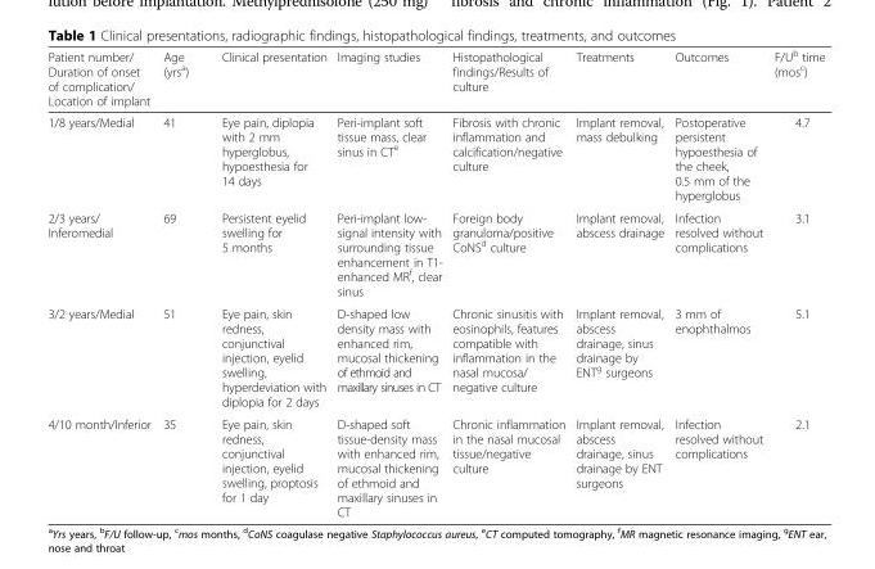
<table><thead><tr><td>Patient number/ Duration of onset of complication/ Location of implant</td><td>Age (yrs<sup>a</sup>)</td><td>Clinical presentation</td><td>Imaging studies</td><td>Histopathological findings/Results of culture</td><td>Treatments</td><td>Outcomes</td><td>F/U<sup>b</sup> time (mos<sup>c</sup>)</td></tr></thead><tbody><tr><td>1/8 years/Medial</td><td>41</td><td>Eye pain, diplopia with 2 mm hyperglobus, hypoesthesia for 14 days</td><td>Peri-implant soft tissue mass, clear sinus in CT<sup>e</sup></td><td>Fibrosis with chronic inflammation and calcification/negative culture</td><td>Implant removal, mass debulking</td><td>Postoperative persistent hypoesthesia of the cheek, 0.5 mm of the hyperglobus</td><td>4.7</td></tr><tr><td>2/3 years/ Inferomedial</td><td>69</td><td>Persistent eyelid swelling for 5 months</td><td>Peri-implant low- signal intensity with surrounding tissue enhancement in T1- enhanced MR<sup>f</sup>, clear sinus</td><td>Foreign body granuloma/positive CoNS<sup>d</sup> culture</td><td>Implant removal, abscess drainage</td><td>Infection resolved without complications</td><td>3.1</td></tr><tr><td>3/2 years/Medial</td><td>51</td><td>Eye pain, skin redness, conjunctival injection, eyelid swelling, hyperdeviation with diplopia for 2 days</td><td>D-shaped low density mass with enhanced rim, mucosal thickening of ethmoid and maxillary sinuses in CT</td><td>Chronic sinusitis with eosinophils, features compatible with inflammation in the nasal mucosa/ negative culture</td><td>Implant removal, abscess drainage, sinus drainage by ENT<sup>g</sup> surgeons</td><td>3 mm of enophthalmos</td><td>5.1</td></tr><tr><td>4/10 month/Inferior</td><td>35</td><td>Eye pain, skin redness, conjunctival injection, eyelid swelling, proptosis for 1 day</td><td>D-shaped soft tissue-density mass with enhanced rim, mucosal thickening of ethmoid and maxillary sinuses in CT</td><td>Chronic inflammation in the nasal mucosal tissue/negative culture</td><td>Implant removal, abscess drainage, sinus drainage by ENT surgeons</td><td>Infection resolved without complications</td><td>2.1</td></tr></tbody></table>